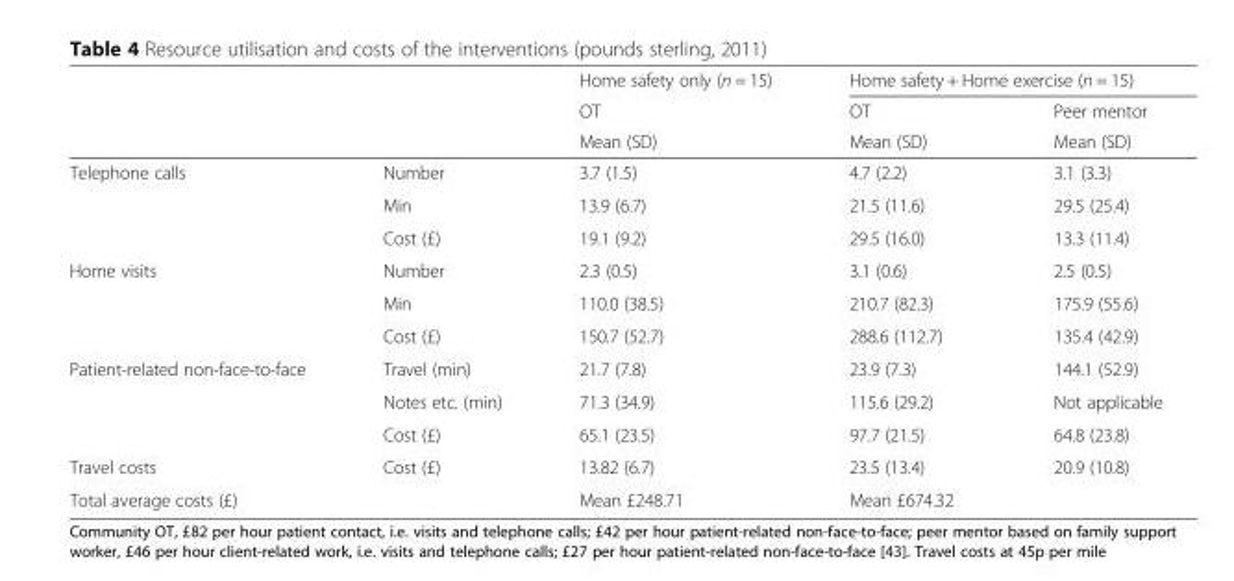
<table><thead><tr><td rowspan="3"></td><td rowspan="3"></td><td rowspan="3">Home safety only (n = 15) OT Mean (SD)</td><td colspan="2">Home safety + Home exercise (n = 15)</td></tr><tr><td rowspan="2">OT Mean (SD)</td><td rowspan="2">Peer mentor Mean (SD)</td></tr><tr></tr></thead><tbody><tr><td rowspan="3">Telephone calls</td><td>Number</td><td>3.7 (1.5)</td><td>4.7 (2.2)</td><td>3.1 (3.3)</td></tr><tr><td>Min</td><td>13.9 (6.7)</td><td>21.5 (11.6)</td><td>29.5 (25.4)</td></tr><tr><td>Cost (£)</td><td>19.1 (9.2)</td><td>29.5 (16.0)</td><td>13.3 (11.4)</td></tr><tr><td rowspan="3">Home visits</td><td>Number</td><td>2.3 (0.5)</td><td>3.1 (0.6)</td><td>2.5 (0.5)</td></tr><tr><td>Min</td><td>110.0 (38.5)</td><td>210.7 (82.3)</td><td>175.9 (55.6)</td></tr><tr><td>Cost (£)</td><td>150.7 (52.7)</td><td>288.6 (112.7)</td><td>135.4 (42.9)</td></tr><tr><td rowspan="3">Patient-related non-face-to-face</td><td>Travel (min)</td><td>21.7 (7.8)</td><td>23.9 (7.3)</td><td>144.1 (52.9)</td></tr><tr><td>Notes etc. (min)</td><td>71.3 (34.9)</td><td>115.6 (29.2)</td><td>Not applicable</td></tr><tr><td>Cost (£)</td><td>65.1 (23.5)</td><td>97.7 (21.5)</td><td>64.8 (23.8)</td></tr><tr><td>Travel costs</td><td>Cost (£)</td><td>13.82 (6.7)</td><td>23.5 (13.4)</td><td>20.9 (10.8)</td></tr><tr><td colspan="2">Total average costs (£)</td><td>Mean £248.71</td><td colspan="2">Mean £674.32</td></tr></tbody></table>